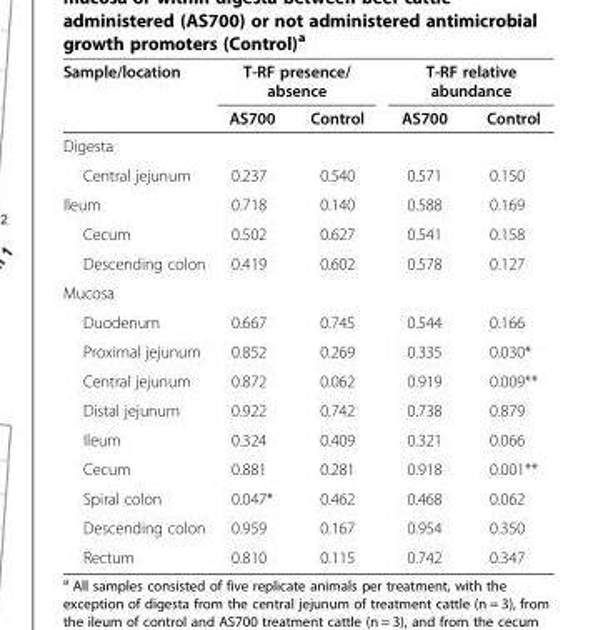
<table><thead><tr><td rowspan="2">Sample/location</td><td colspan="2">T-RF presence/ absence</td><td colspan="2">T-RF relative abundance</td></tr><tr><td>AS700</td><td>Control</td><td>AS700</td><td>Control</td></tr></thead><tbody><tr><td colspan="5">Digesta</td></tr><tr><td>Central jejunum</td><td>0.237</td><td>0.540</td><td>0.571</td><td>0.150</td></tr><tr><td>Ileum</td><td>0.718</td><td>0.140</td><td>0.588</td><td>0.169</td></tr><tr><td>Cecum</td><td>0.502</td><td>0.627</td><td>0.541</td><td>0.158</td></tr><tr><td>Descending colon</td><td>0.419</td><td>0.602</td><td>0.578</td><td>0.127</td></tr><tr><td colspan="5">Mucosa</td></tr><tr><td>Duodenum</td><td>0.667</td><td>0.745</td><td>0.544</td><td>0.166</td></tr><tr><td>Proximal jejunum</td><td>0.852</td><td>0.269</td><td>0.335</td><td>0.030*</td></tr><tr><td>Central jejunum</td><td>0.872</td><td>0.062</td><td>0.919</td><td>0.009**</td></tr><tr><td>Distal jejunum</td><td>0.922</td><td>0.742</td><td>0.738</td><td>0.879</td></tr><tr><td>Ileum</td><td>0.324</td><td>0.409</td><td>0.321</td><td>0.066</td></tr><tr><td>Cecum</td><td>0.881</td><td>0.281</td><td>0.918</td><td>0.001**</td></tr><tr><td>Spiral colon</td><td>0.047*</td><td>0.462</td><td>0.468</td><td>0.062</td></tr><tr><td>Descending colon</td><td>0.959</td><td>0.167</td><td>0.954</td><td>0.350</td></tr><tr><td>Rectum</td><td>0.810</td><td>0.115</td><td>0.742</td><td>0.347</td></tr></tbody></table>